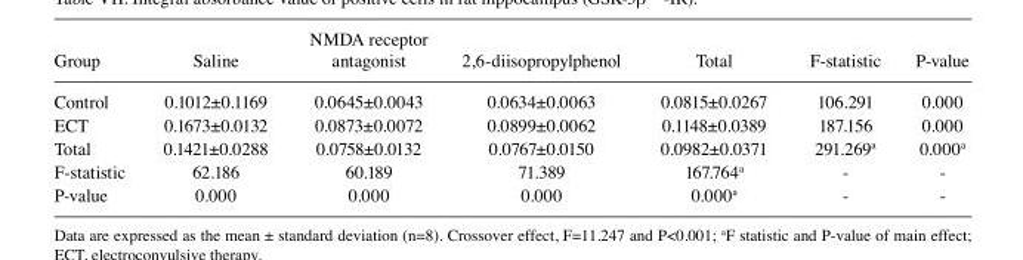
<table><thead><tr><td>Group</td><td>Saline</td><td>antagonist</td><td>2,6-diisopropylphenol</td><td>Total</td><td>F-statistic</td><td>P-value</td></tr></thead><tbody><tr><td>Control</td><td>0.1012±0.1169</td><td>0.0645±0.0043</td><td>0.0634±0.0063</td><td>0.0815±0.0267</td><td>106.291</td><td>0.000</td></tr><tr><td>ECT</td><td>0.1673±0.0132</td><td>0.0873±0.0072</td><td>0.0899±0.0062</td><td>0.1148±0.0389</td><td>187.156</td><td>0.000</td></tr><tr><td>Total</td><td>0.1421±0.0288</td><td>0.0758±0.0132</td><td>0.0767±0.0150</td><td>0.0982±0.0371</td><td>291.269<sup>a</sup></td><td>0.000<sup>a</sup></td></tr><tr><td>F-statistic</td><td>62.186</td><td>60.189</td><td>71.389</td><td>167.764<sup>a</sup></td><td>-</td><td>-</td></tr><tr><td>P-value</td><td>0.000</td><td>0.000</td><td>0.000</td><td>0.000<sup>a</sup></td><td>-</td><td>-</td></tr></tbody></table>